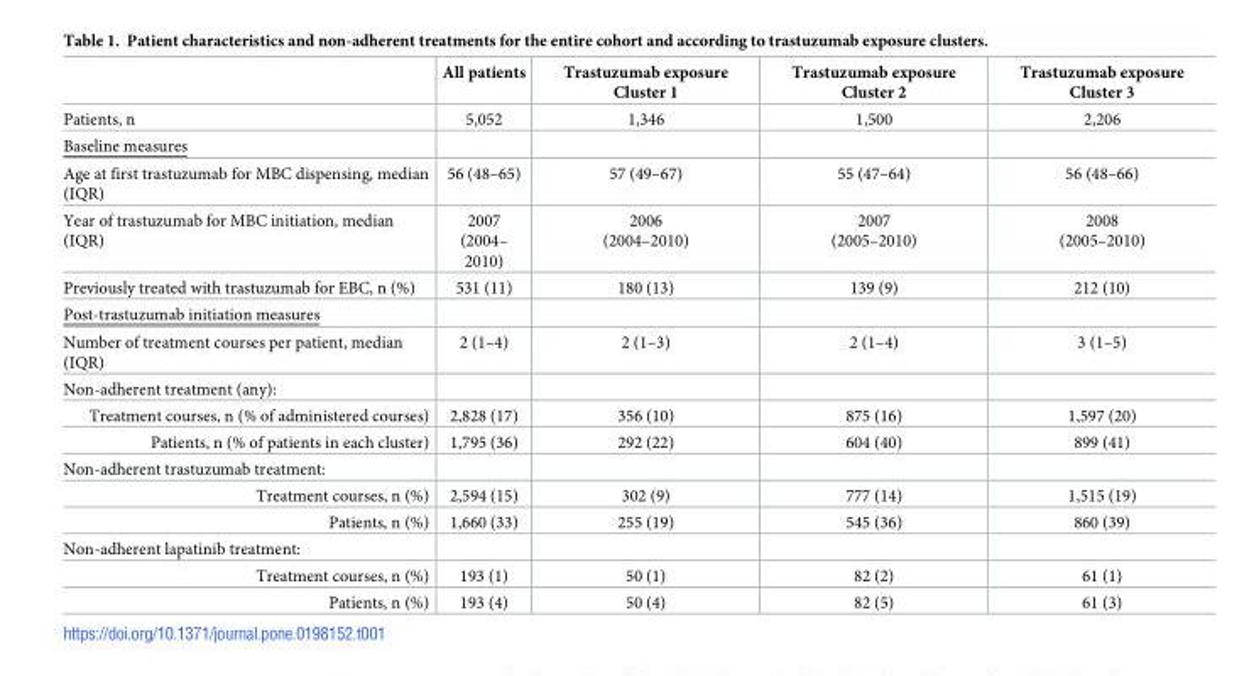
<table><thead><tr><td></td><td>All patients</td><td>Trastuzumab exposure Cluster 1</td><td>Trastuzumab exposure Cluster 2</td><td>Trastuzumab exposure Cluster 3</td></tr></thead><tbody><tr><td>Patients, n</td><td>5,052</td><td>1,346</td><td>1,500</td><td>2,206</td></tr><tr><td colspan="5">Baseline measures</td></tr><tr><td>Age at first trastuzumab for MBC dispensing, median (IQR)</td><td>56 (48–65)</td><td>57 (49–67)</td><td>55 (47–64)</td><td>56 (48–66)</td></tr><tr><td>Year of trastuzumab for MBC initiation, median (IQR)</td><td>2007 (2004– 2010)</td><td>2006 (2004–2010)</td><td>2007 (2005–2010)</td><td>2008 (2005–2010)</td></tr><tr><td>Previously treated with trastuzumab for EBC, n (%)</td><td>531 (11)</td><td>180 (13)</td><td>139 (9)</td><td>212 (10)</td></tr><tr><td colspan="5">Post-trastuzumab initiation measures</td></tr><tr><td>Number of treatment courses per patient, median (IQR)</td><td>2 (1–4)</td><td>2 (1–3)</td><td>2 (1–4)</td><td>3 (1–5)</td></tr><tr><td colspan="5">Non-adherent treatment (any):</td></tr><tr><td>Treatment courses, n (% of administered courses)</td><td>2,828 (17)</td><td>356 (10)</td><td>875 (16)</td><td>1,597 (20)</td></tr><tr><td>Patients, n (% of patients in each cluster)</td><td>1,795 (36)</td><td>292 (22)</td><td>604 (40)</td><td>899 (41)</td></tr><tr><td colspan="5">Non-adherent trastuzumab treatment:</td></tr><tr><td>Treatment courses, n (%)</td><td>2,594 (15)</td><td>302 (9)</td><td>777 (14)</td><td>1,515 (19)</td></tr><tr><td>Patients, n (%)</td><td>1,660 (33)</td><td>255 (19)</td><td>545 (36)</td><td>860 (39)</td></tr><tr><td colspan="5">Non-adherent lapatinib treatment:</td></tr><tr><td>Treatment courses, n (%)</td><td>193 (1)</td><td>50 (1)</td><td>82 (2)</td><td>61 (1)</td></tr><tr><td>Patients, n (%)</td><td>193 (4)</td><td>50 (4)</td><td>82 (5)</td><td>61 (3)</td></tr></tbody></table>